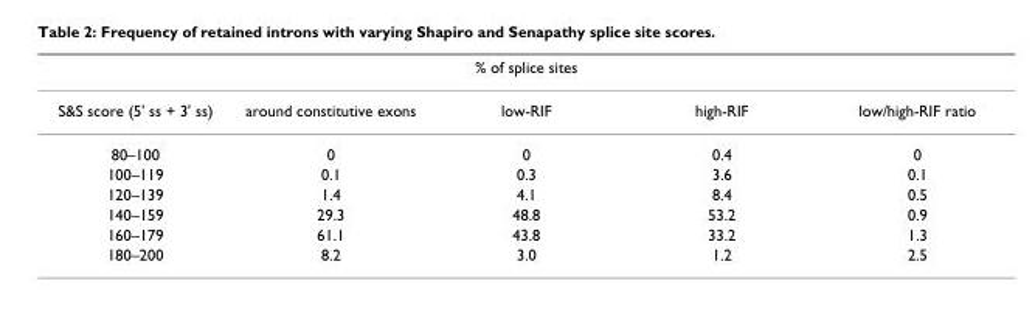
<table><thead><tr><td rowspan="2">S&amp;S score (5&#x27; ss + 3&#x27; ss)</td><td colspan="3">% of splice sites</td><td rowspan="2">low/high-RIF ratio</td></tr><tr><td>around constitutive exons</td><td>low-RIF</td><td>high-RIF</td></tr></thead><tbody><tr><td>80–100</td><td>0</td><td>0</td><td>0.4</td><td>0</td></tr><tr><td>100–119</td><td>0.1</td><td>0.3</td><td>3.6</td><td>0.1</td></tr><tr><td>120–139</td><td>1.4</td><td>4.1</td><td>8.4</td><td>0.5</td></tr><tr><td>140–159</td><td>29.3</td><td>48.8</td><td>53.2</td><td>0.9</td></tr><tr><td>160–179</td><td>61.1</td><td>43.8</td><td>33.2</td><td>1.3</td></tr><tr><td>180–200</td><td>8.2</td><td>3.0</td><td>1.2</td><td>2.5</td></tr></tbody></table>